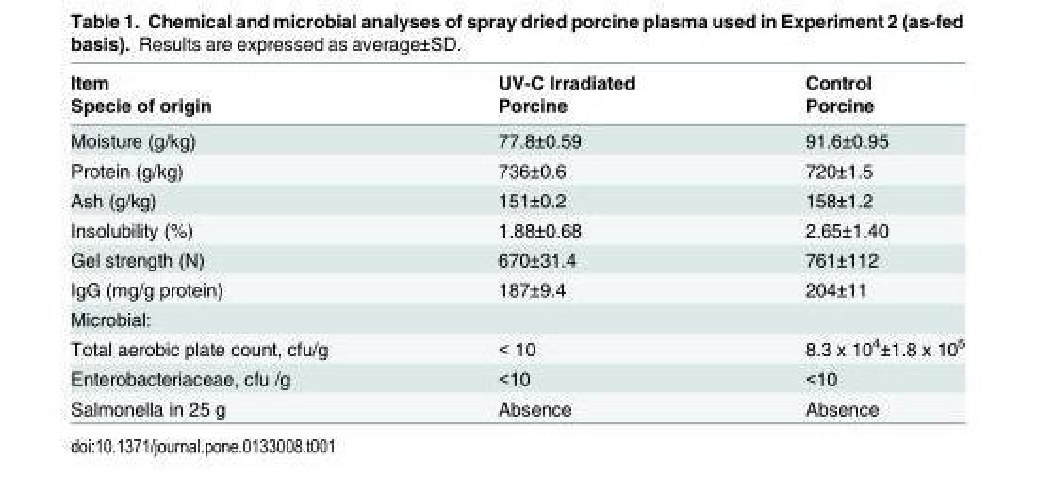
<table><thead><tr><td rowspan="2">Item Specie of origin</td><td rowspan="2">UV-C Irradiated Porcine</td><td rowspan="2">Control Porcine</td></tr><tr></tr></thead><tbody><tr><td>Moisture (g/kg)</td><td>77.8±0.59</td><td>91.6±0.95</td></tr><tr><td>Protein (g/kg)</td><td>736±0.6</td><td>720±1.5</td></tr><tr><td>Ash (g/kg)</td><td>151±0.2</td><td>158±1.2</td></tr><tr><td>Insolubility (%)</td><td>1.88±0.68</td><td>2.65±1.40</td></tr><tr><td>Gel strength (N)</td><td>670±31.4</td><td>761±112</td></tr><tr><td>IgG (mg/g protein)</td><td>187±9.4</td><td>204±11</td></tr><tr><td colspan="3">Microbial:</td></tr><tr><td>Total aerobic plate count, cfu/g</td><td>&lt; 10</td><td>8.3 x 10<sup>4</sup>±1.8 x 10<sup>5</sup></td></tr><tr><td>Enterobacteriaceae, cfu /g</td><td>&lt;10</td><td>&lt;10</td></tr><tr><td>Salmonella in 25 g</td><td>Absence</td><td>Absence</td></tr></tbody></table>